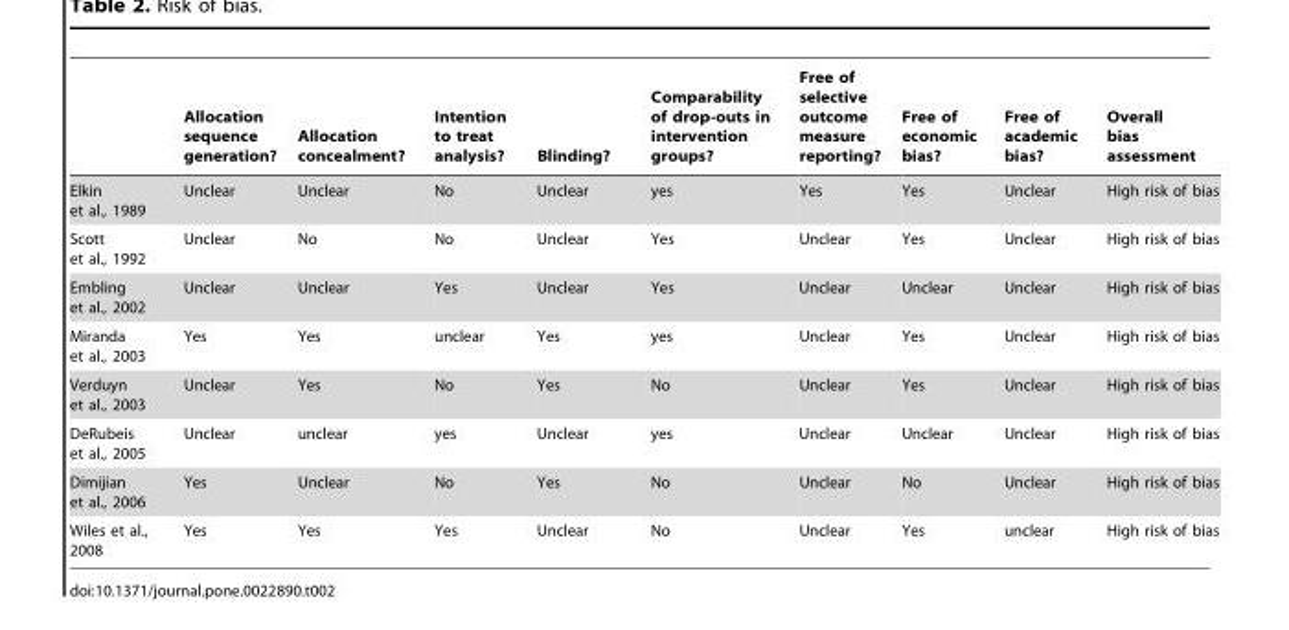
<table><thead><tr><td></td><td>Allocation sequence generation?</td><td>Allocation concealment?</td><td>Intention to treat analysis?</td><td>Blinding?</td><td>Comparability of drop-outs in intervention groups?</td><td>Free of selective outcome measure reporting?</td><td>Free of economic bias?</td><td>Free of academic bias?</td><td>Overall bias assessment</td></tr></thead><tbody><tr><td>Elkin et al., 1989</td><td>Unclear</td><td>Unclear</td><td>No</td><td>Unclear</td><td>yes</td><td>Yes</td><td>Yes</td><td>Unclear</td><td>High risk of bias</td></tr><tr><td>Scott et al., 1992</td><td>Unclear</td><td>No</td><td>No</td><td>Unclear</td><td>Yes</td><td>Unclear</td><td>Yes</td><td>Unclear</td><td>High risk of bias</td></tr><tr><td>Embling et al., 2002</td><td>Unclear</td><td>Unclear</td><td>Yes</td><td>Unclear</td><td>Yes</td><td>Unclear</td><td>Unclear</td><td>Unclear</td><td>High risk of bias</td></tr><tr><td>Miranda et al., 2003</td><td>Yes</td><td>Yes</td><td>unclear</td><td>Yes</td><td>yes</td><td>Unclear</td><td>Yes</td><td>Unclear</td><td>High risk of bias</td></tr><tr><td>Verduyn et al., 2003</td><td>Unclear</td><td>Yes</td><td>No</td><td>Yes</td><td>No</td><td>Unclear</td><td>Yes</td><td>Unclear</td><td>High risk of bias</td></tr><tr><td>DeRubeis et al., 2005</td><td>Unclear</td><td>unclear</td><td>yes</td><td>Unclear</td><td>yes</td><td>Unclear</td><td>Unclear</td><td>Unclear</td><td>High risk of bias</td></tr><tr><td>Dimijian et al., 2006</td><td>Yes</td><td>Unclear</td><td>No</td><td>Yes</td><td>No</td><td>Unclear</td><td>No</td><td>Unclear</td><td>High risk of bias</td></tr><tr><td>Wiles et al., 2008</td><td>Yes</td><td>Yes</td><td>Yes</td><td>Unclear</td><td>No</td><td>Unclear</td><td>Yes</td><td>unclear</td><td>High risk of bias</td></tr></tbody></table>